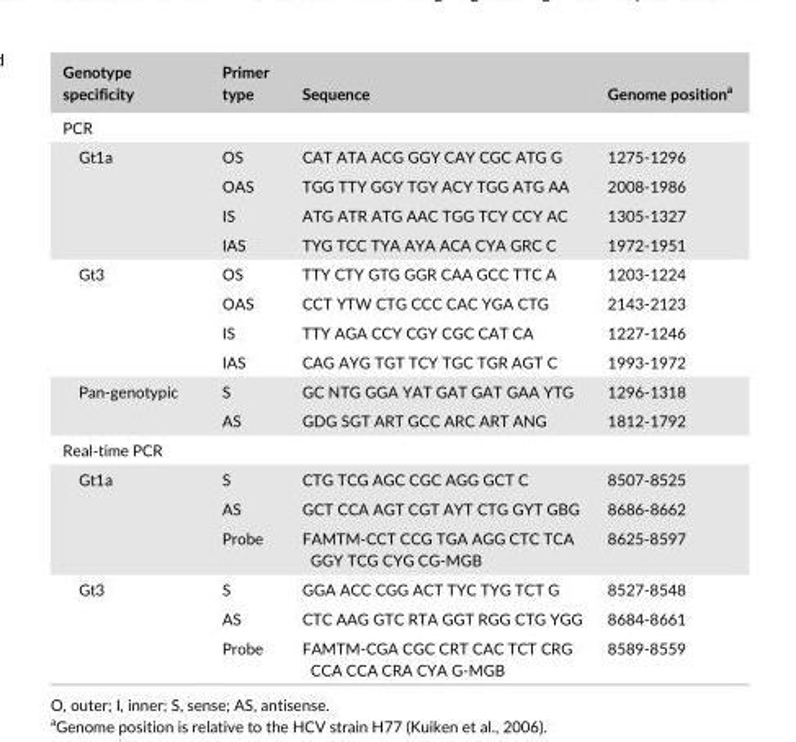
<table><thead><tr><td>Genotype specificity</td><td>Primer type</td><td>Sequence</td><td>Genome position<sup>a</sup></td></tr></thead><tbody><tr><td colspan="4">PCR</td></tr><tr><td rowspan="4">Gt1a</td><td>OS</td><td>CAT ATA ACG GGY CAY CGC ATG G</td><td>1275- 1296</td></tr><tr><td>OAS</td><td>TGG TTY GGY TGY ACY TGG ATG AA</td><td>2008- 1986</td></tr><tr><td>IS</td><td>ATG ATR ATG AAC TGG TCY CCY AC</td><td>1305- 1327</td></tr><tr><td>IAS</td><td>TYG TCC TYA AYA ACA CYA GRC C</td><td>1972- 1951</td></tr><tr><td rowspan="4">Gt3</td><td>OS</td><td>TTY CTY GTG GGR CAA GCC TTC A</td><td>1203- 1224</td></tr><tr><td>OAS</td><td>CCT YTW CTG CCC CAC YGA CTG</td><td>2143- 2123</td></tr><tr><td>IS</td><td>TTY AGA CCY CGY CGC CAT CA</td><td>1227- 1246</td></tr><tr><td>IAS</td><td>CAG AYG TGT TCY TGC TGR AGT C</td><td>1993- 1972</td></tr><tr><td rowspan="2">Pan- genotypic</td><td>S</td><td>GC NTG GGA YAT GAT GAT GAA YTG</td><td>1296- 1318</td></tr><tr><td>AS</td><td>GDG SGT ART GCC ARC ART ANG</td><td>1812- 1792</td></tr><tr><td colspan="4">Real- time PCR</td></tr><tr><td rowspan="3">Gt1a</td><td>S</td><td>CTG TCG AGC CGC AGG GCT C</td><td>8507- 8525</td></tr><tr><td>AS</td><td>GCT CCA AGT CGT AYT CTG GYT GBG</td><td>8686- 8662</td></tr><tr><td>Probe</td><td>FAMTM- CCT CCG TGA AGG CTC TCA GGY TCG CYG CG- MGB</td><td>8625- 8597</td></tr><tr><td rowspan="3">Gt3</td><td>S</td><td>GGA ACC CGG ACT TYC TYG TCT G</td><td>8527- 8548</td></tr><tr><td>AS</td><td>CTC AAG GTC RTA GGT RGG CTG YGG</td><td>8684- 8661</td></tr><tr><td>Probe</td><td>FAMTM- CGA CGC CRT CAC TCT CRG CCA CCA CRA CYA G- MGB</td><td>8589- 8559</td></tr></tbody></table>